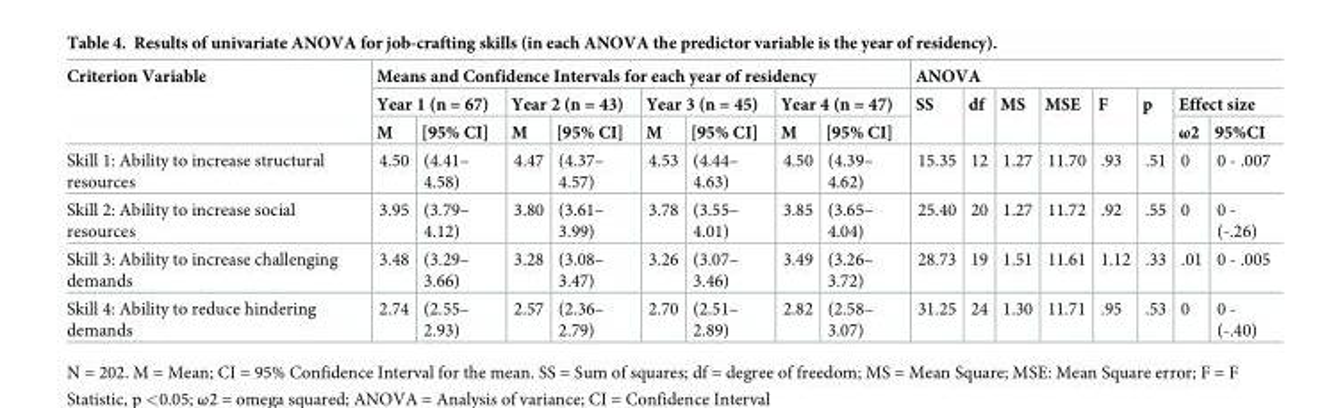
<table><thead><tr><td rowspan="3">Criterion Variable</td><td colspan="8">Means and Confidence Intervals for each year of residency</td><td colspan="8">ANOVA</td></tr><tr><td colspan="2">Year 1 (n = 67)</td><td colspan="2">Year 2 (n = 43)</td><td colspan="2">Year 3 (n = 45)</td><td colspan="2">Year 4 (n = 47)</td><td rowspan="2">SS</td><td rowspan="2">df</td><td rowspan="2">MS</td><td rowspan="2">MSE</td><td rowspan="2">F</td><td rowspan="2">p</td><td colspan="2">Effect size</td></tr><tr><td>M</td><td>[95% CI]</td><td>M</td><td>[95% CI]</td><td>M</td><td>[95% CI]</td><td>M</td><td>[95% CI]</td><td>ω2</td><td>95%CI</td></tr></thead><tbody><tr><td>Skill 1: Ability to increase structural resources</td><td>4.50</td><td>(4.41– 4.58)</td><td>4.47</td><td>(4.37– 4.57)</td><td>4.53</td><td>(4.44– 4.63)</td><td>4.50</td><td>(4.39– 4.62)</td><td>15.35</td><td>12</td><td>1.27</td><td>11.70</td><td>.93</td><td>.51</td><td>0</td><td>0 - .007</td></tr><tr><td>Skill 2: Ability to increase social resources</td><td>3.95</td><td>(3.79– 4.12)</td><td>3.80</td><td>(3.61– 3.99)</td><td>3.78</td><td>(3.55– 4.01)</td><td>3.85</td><td>(3.65– 4.04)</td><td>25.40</td><td>20</td><td>1.27</td><td>11.72</td><td>.92</td><td>.55</td><td>0</td><td>0 - (-.26)</td></tr><tr><td>Skill 3: Ability to increase challenging demands</td><td>3.48</td><td>(3.29– 3.66)</td><td>3.28</td><td>(3.08– 3.47)</td><td>3.26</td><td>(3.07– 3.46)</td><td>3.49</td><td>(3.26– 3.72)</td><td>28.73</td><td>19</td><td>1.51</td><td>11.61</td><td>1.12</td><td>.33</td><td>.01</td><td>0 - .005</td></tr><tr><td>Skill 4: Ability to reduce hindering demands</td><td>2.74</td><td>(2.55– 2.93)</td><td>2.57</td><td>(2.36– 2.79)</td><td>2.70</td><td>(2.51– 2.89)</td><td>2.82</td><td>(2.58– 3.07)</td><td>31.25</td><td>24</td><td>1.30</td><td>11.71</td><td>.95</td><td>.53</td><td>0</td><td>0 - (-.40)</td></tr></tbody></table>